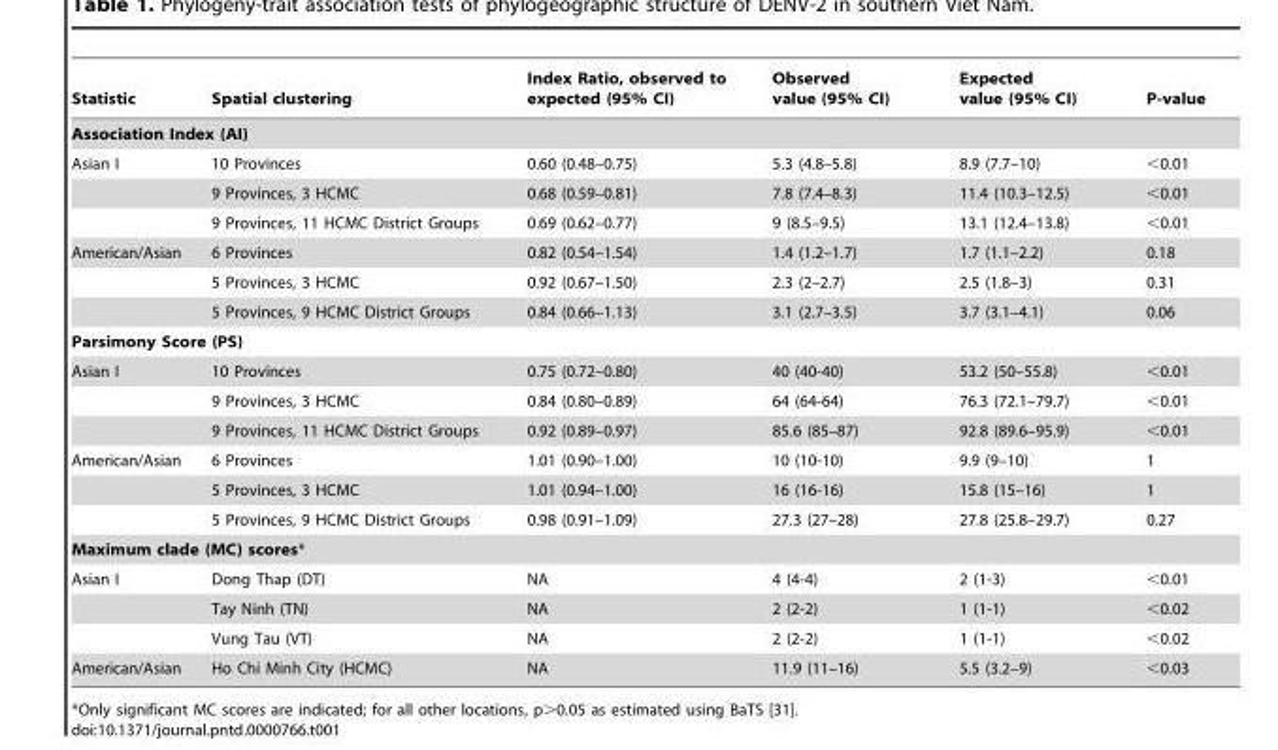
<table><thead><tr><td>Statistic</td><td>Spatial clustering</td><td>Index Ratio, observed to expected (95% CI)</td><td>Observed value (95% CI)</td><td>Expected value (95% CI)</td><td>P-value</td></tr></thead><tbody><tr><td colspan="6">Association Index (AI)</td></tr><tr><td rowspan="3">Asian I</td><td>10 Provinces</td><td>0.60 (0.48–0.75)</td><td>5.3 (4.8–5.8)</td><td>8.9 (7.7–10)</td><td>&lt;0.01</td></tr><tr><td>9 Provinces, 3 HCMC</td><td>0.68 (0.59–0.81)</td><td>7.8 (7.4–8.3)</td><td>11.4 (10.3–12.5)</td><td>&lt;0.01</td></tr><tr><td>9 Provinces, 11 HCMC District Groups</td><td>0.69 (0.62–0.77)</td><td>9 (8.5–9.5)</td><td>13.1 (12.4–13.8)</td><td>&lt;0.01</td></tr><tr><td rowspan="3">American/Asian</td><td>6 Provinces</td><td>0.82 (0.54–1.54)</td><td>1.4 (1.2–1.7)</td><td>1.7 (1.1–2.2)</td><td>0.18</td></tr><tr><td>5 Provinces, 3 HCMC</td><td>0.92 (0.67–1.50)</td><td>2.3 (2–2.7)</td><td>2.5 (1.8–3)</td><td>0.31</td></tr><tr><td>5 Provinces, 9 HCMC District Groups</td><td>0.84 (0.66–1.13)</td><td>3.1 (2.7–3.5)</td><td>3.7 (3.1–4.1)</td><td>0.06</td></tr><tr><td colspan="6">Parsimony Score (PS)</td></tr><tr><td rowspan="3">Asian I</td><td>10 Provinces</td><td>0.75 (0.72–0.80)</td><td>40 (40-40)</td><td>53.2 (50–55.8)</td><td>&lt;0.01</td></tr><tr><td>9 Provinces, 3 HCMC</td><td>0.84 (0.80–0.89)</td><td>64 (64-64)</td><td>76.3 (72.1–79.7)</td><td>&lt;0.01</td></tr><tr><td>9 Provinces, 11 HCMC District Groups</td><td>0.92 (0.89–0.97)</td><td>85.6 (85–87)</td><td>92.8 (89.6–95.9)</td><td>&lt;0.01</td></tr><tr><td rowspan="3">American/Asian</td><td>6 Provinces</td><td>1.01 (0.90–1.00)</td><td>10 (10-10)</td><td>9.9 (9–10)</td><td>1</td></tr><tr><td>5 Provinces, 3 HCMC</td><td>1.01 (0.94–1.00)</td><td>16 (16-16)</td><td>15.8 (15–16)</td><td>1</td></tr><tr><td>5 Provinces, 9 HCMC District Groups</td><td>0.98 (0.91–1.09)</td><td>27.3 (27–28)</td><td>27.8 (25.8–29.7)</td><td>0.27</td></tr><tr><td colspan="6">Maximum clade (MC) scores*</td></tr><tr><td rowspan="3">Asian I</td><td>Dong Thap (DT)</td><td>NA</td><td>4 (4-4)</td><td>2 (1-3)</td><td>&lt;0.01</td></tr><tr><td>Tay Ninh (TN)</td><td>NA</td><td>2 (2-2)</td><td>1 (1-1)</td><td>&lt;0.02</td></tr><tr><td>Vung Tau (VT)</td><td>NA</td><td>2 (2-2)</td><td>1 (1-1)</td><td>&lt;0.02</td></tr><tr><td>American/Asian</td><td>Ho Chi Minh City (HCMC)</td><td>NA</td><td>11.9 (11–16)</td><td>5.5 (3.2–9)</td><td>&lt;0.03</td></tr></tbody></table>